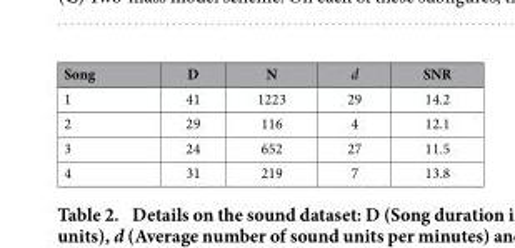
<table><thead><tr><td>Song</td><td>D</td><td>N</td><td>d</td><td>SNR</td></tr></thead><tbody><tr><td>1</td><td>41</td><td>1223</td><td>29</td><td>14.2</td></tr><tr><td>2</td><td>29</td><td>116</td><td>4</td><td>12.1</td></tr><tr><td>3</td><td>24</td><td>652</td><td>27</td><td>11.5</td></tr><tr><td>4</td><td>31</td><td>219</td><td>7</td><td>13.8</td></tr></tbody></table>